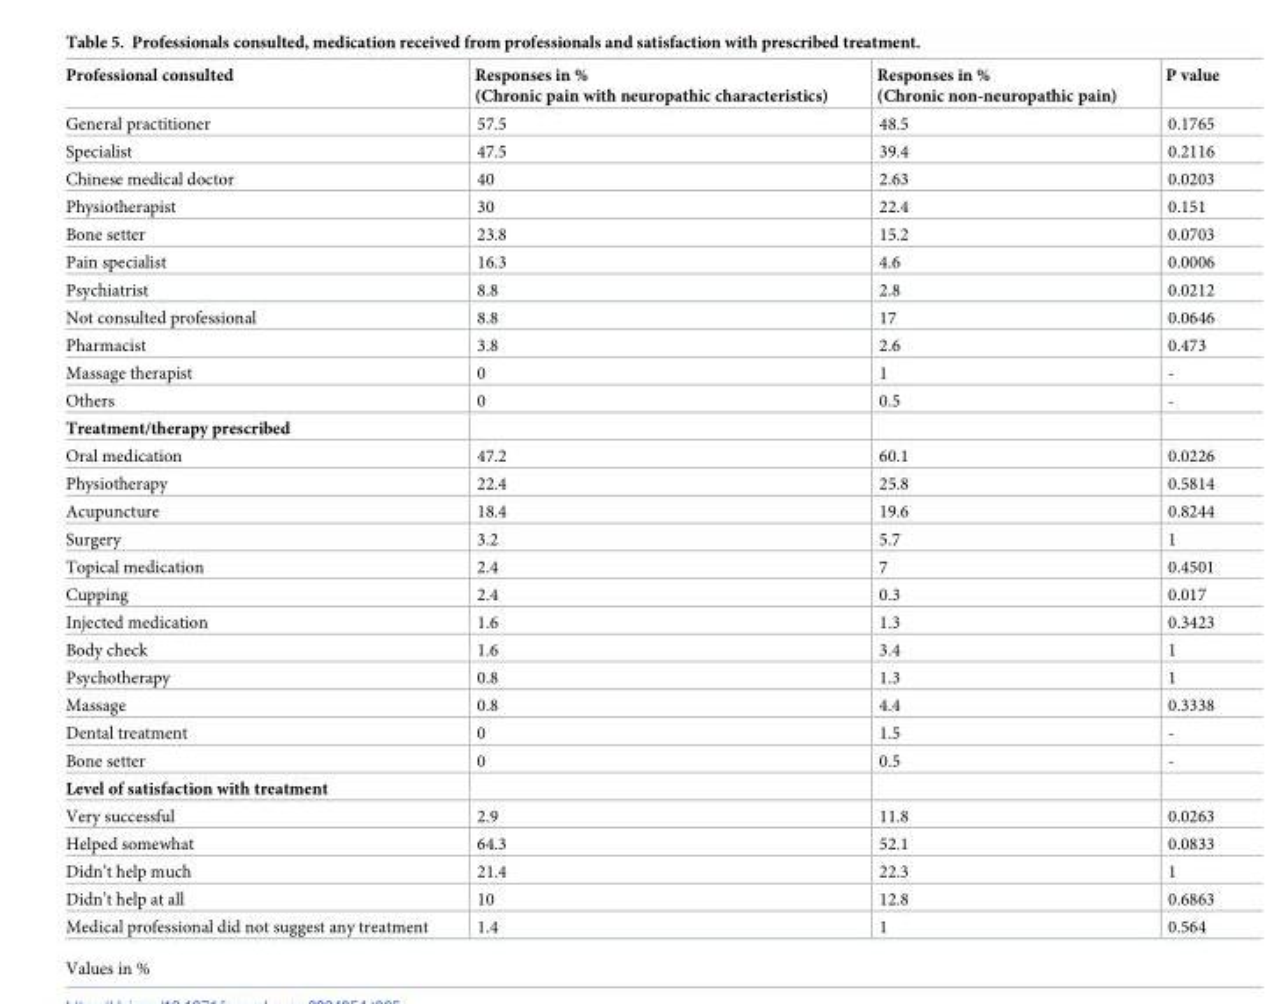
<table><thead><tr><td>Professional consulted</td><td>Responses in % (Chronic pain with neuropathic characteristics)</td><td>Responses in % (Chronic non-neuropathic pain)</td><td>P value</td></tr></thead><tbody><tr><td>General practitioner</td><td>57.5</td><td>48.5</td><td>0.1765</td></tr><tr><td>Specialist</td><td>47.5</td><td>39.4</td><td>0.2116</td></tr><tr><td>Chinese medical doctor</td><td>40</td><td>2.63</td><td>0.0203</td></tr><tr><td>Physiotherapist</td><td>30</td><td>22.4</td><td>0.151</td></tr><tr><td>Bone setter</td><td>23.8</td><td>15.2</td><td>0.0703</td></tr><tr><td>Pain specialist</td><td>16.3</td><td>4.6</td><td>0.0006</td></tr><tr><td>Psychiatrist</td><td>8.8</td><td>2.8</td><td>0.0212</td></tr><tr><td>Not consulted professional</td><td>8.8</td><td>17</td><td>0.0646</td></tr><tr><td>Pharmacist</td><td>3.8</td><td>2.6</td><td>0.473</td></tr><tr><td>Massage therapist</td><td>0</td><td>1</td><td>-</td></tr><tr><td>Others</td><td>0</td><td>0.5</td><td>-</td></tr><tr><td colspan="4">Treatment/therapy prescribed</td></tr><tr><td>Oral medication</td><td>47.2</td><td>60.1</td><td>0.0226</td></tr><tr><td>Physiotherapy</td><td>22.4</td><td>25.8</td><td>0.5814</td></tr><tr><td>Acupuncture</td><td>18.4</td><td>19.6</td><td>0.8244</td></tr><tr><td>Surgery</td><td>3.2</td><td>5.7</td><td>1</td></tr><tr><td>Topical medication</td><td>2.4</td><td>7</td><td>0.4501</td></tr><tr><td>Cupping</td><td>2.4</td><td>0.3</td><td>0.017</td></tr><tr><td>Injected medication</td><td>1.6</td><td>1.3</td><td>0.3423</td></tr><tr><td>Body check</td><td>1.6</td><td>3.4</td><td>1</td></tr><tr><td>Psychotherapy</td><td>0.8</td><td>1.3</td><td>1</td></tr><tr><td>Massage</td><td>0.8</td><td>4.4</td><td>0.3338</td></tr><tr><td>Dental treatment</td><td>0</td><td>1.5</td><td>-</td></tr><tr><td>Bone setter</td><td>0</td><td>0.5</td><td>-</td></tr><tr><td colspan="4">Level of satisfaction with treatment</td></tr><tr><td>Very successful</td><td>2.9</td><td>11.8</td><td>0.0263</td></tr><tr><td>Helped somewhat</td><td>64.3</td><td>52.1</td><td>0.0833</td></tr><tr><td>Didn’t help much</td><td>21.4</td><td>22.3</td><td>1</td></tr><tr><td>Didn’t help at all</td><td>10</td><td>12.8</td><td>0.6863</td></tr><tr><td>Medical professional did not suggest any treatment</td><td>1.4</td><td>1</td><td>0.564</td></tr></tbody></table>